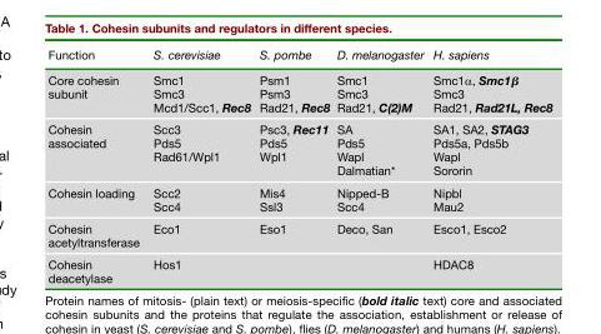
<table><thead><tr><td>Function</td><td>S. cerevisiae</td><td>S. pombe</td><td>D. melanogaster</td><td>H. sapiens</td></tr></thead><tbody><tr><td>Core cohesin subunit</td><td>Smc1 Smc3 Mcd1/Scc1, Rec8</td><td>Psm1 Psm3 Rad21, Rec8</td><td>Smc1 Smc3 Rad21, C(2)M</td><td>Smc1α, Smc1b Smc3 Rad21, Rad21L, Rec8</td></tr><tr><td>Cohesin associated</td><td>Scc3 Pds5 Rad61/Wpl1</td><td>Psc3, Rec11 Pds5 Wpl1</td><td>SA Pds5 Wapl Dalmatian*</td><td>SA1, SA2, STAG3 Pds5a, Pds5b Wapl Sororin</td></tr><tr><td>Cohesin loading</td><td>Scc2 Scc4</td><td>Mis4 Ssl3</td><td>Nipped-B Scc4</td><td>Nipbl Mau2</td></tr><tr><td>Cohesin acetyltransferase</td><td>Eco1</td><td>Eso1</td><td>Deco, San</td><td>Esco1, Esco2</td></tr><tr><td>Cohesin deacetylase</td><td>Hos1</td><td></td><td></td><td>HDAC8</td></tr></tbody></table>